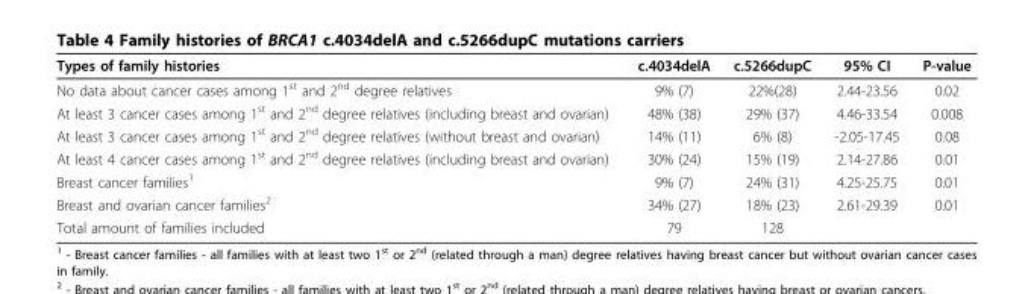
<table><thead><tr><td>Types of family histories</td><td>c.4034delA</td><td>c.5266dupC</td><td>95% CI</td><td>P-value</td></tr></thead><tbody><tr><td>No data about cancer cases among 1<sup>st</sup> and 2<sup>nd</sup> degree relatives</td><td>9% (7)</td><td>22%(28)</td><td>2.44-23.56</td><td>0.02</td></tr><tr><td>At least 3 cancer cases among 1<sup>st</sup> and 2<sup>nd</sup> degree relatives (including breast and ovarian)</td><td>48% (38)</td><td>29% (37)</td><td>4.46-33.54</td><td>0.008</td></tr><tr><td>At least 3 cancer cases among 1<sup>st</sup> and 2<sup>nd</sup> degree relatives (without breast and ovarian)</td><td>14% (11)</td><td>6% (8)</td><td>-2.05-17.45</td><td>0.08</td></tr><tr><td>At least 4 cancer cases among 1<sup>st</sup> and 2<sup>nd</sup> degree relatives (including breast and ovarian)</td><td>30% (24)</td><td>15% (19)</td><td>2.14-27.86</td><td>0.01</td></tr><tr><td>Breast cancer families<sup>1</sup></td><td>9% (7)</td><td>24% (31)</td><td>4.25-25.75</td><td>0.01</td></tr><tr><td>Breast and ovarian cancer families<sup>2</sup></td><td>34% (27)</td><td>18% (23)</td><td>2.61-29.39</td><td>0.01</td></tr><tr><td>Total amount of families included</td><td>79</td><td>128</td><td></td><td></td></tr></tbody></table>